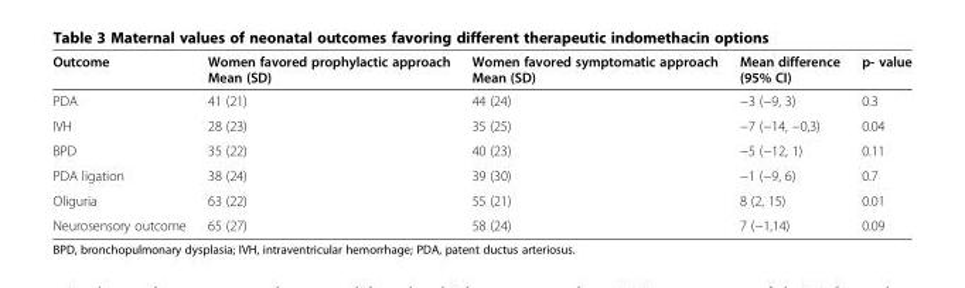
<table><thead><tr><td>Outcome</td><td>Women favored prophylactic approach Mean (SD)</td><td>Women favored symptomatic approach Mean (SD)</td><td>Mean difference (95% CI)</td><td>p- value</td></tr></thead><tbody><tr><td>PDA</td><td>41 (21)</td><td>44 (24)</td><td>−3 (−9, 3)</td><td>0.3</td></tr><tr><td>IVH</td><td>28 (23)</td><td>35 (25)</td><td>−7 (−14, −0,3)</td><td>0.04</td></tr><tr><td>BPD</td><td>35 (22)</td><td>40 (23)</td><td>−5 (−12, 1)</td><td>0.11</td></tr><tr><td>PDA ligation</td><td>38 (24)</td><td>39 (30)</td><td>−1 (−9, 6)</td><td>0.7</td></tr><tr><td>Oliguria</td><td>63 (22)</td><td>55 (21)</td><td>8 (2, 15)</td><td>0.01</td></tr><tr><td>Neurosensory outcome</td><td>65 (27)</td><td>58 (24)</td><td>7 (−1,14)</td><td>0.09</td></tr></tbody></table>